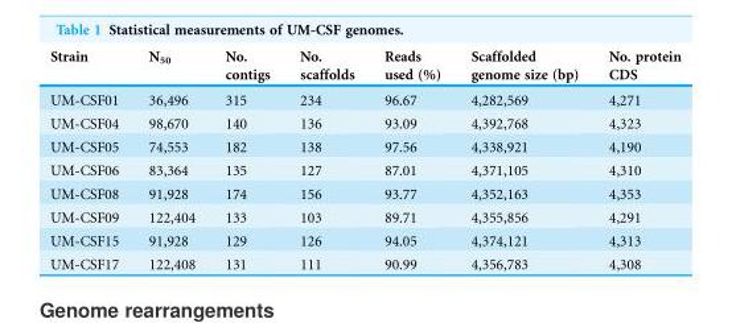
<table><thead><tr><td>Strain</td><td>N<sub>50</sub></td><td>No. contigs</td><td>No. scaffolds</td><td>Reads used (%)</td><td>Scaffolded genome size (bp)</td><td>No. protein CDS</td></tr></thead><tbody><tr><td>UM-CSF01</td><td>36,496</td><td>315</td><td>234</td><td>96.67</td><td>4,282,569</td><td>4,271</td></tr><tr><td>UM-CSF04</td><td>98,670</td><td>140</td><td>136</td><td>93.09</td><td>4,392,768</td><td>4,323</td></tr><tr><td>UM-CSF05</td><td>74,553</td><td>182</td><td>138</td><td>97.56</td><td>4,338,921</td><td>4,190</td></tr><tr><td>UM-CSF06</td><td>83,364</td><td>135</td><td>127</td><td>87.01</td><td>4,371,105</td><td>4,310</td></tr><tr><td>UM-CSF08</td><td>91,928</td><td>174</td><td>156</td><td>93.77</td><td>4,352,163</td><td>4,353</td></tr><tr><td>UM-CSF09</td><td>122,404</td><td>133</td><td>103</td><td>89.71</td><td>4,355,856</td><td>4,291</td></tr><tr><td>UM-CSF15</td><td>91,928</td><td>129</td><td>126</td><td>94.05</td><td>4,374,121</td><td>4,313</td></tr><tr><td>UM-CSF17</td><td>122,408</td><td>131</td><td>111</td><td>90.99</td><td>4,356,783</td><td>4,308</td></tr></tbody></table>